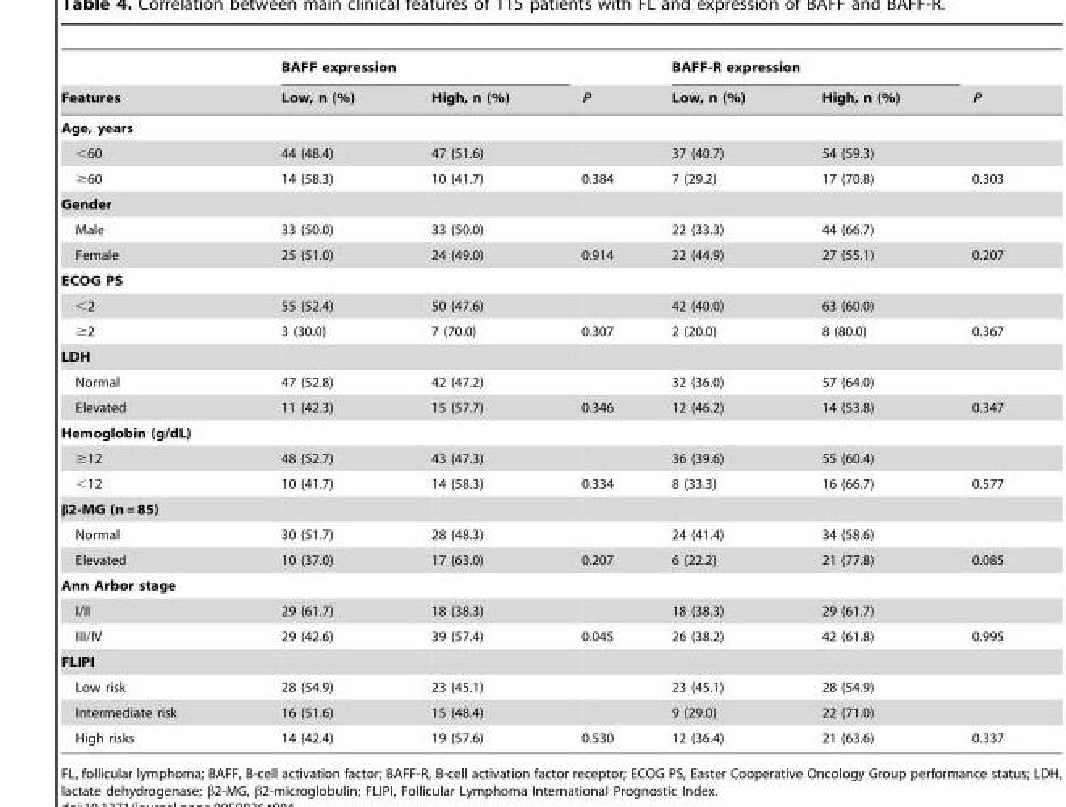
<table><thead><tr><td rowspan="2">Features</td><td colspan="2">BAFF expression</td><td rowspan="2">P</td><td colspan="2">BAFF-R expression</td><td rowspan="2">P</td></tr><tr><td>Low, n (%)</td><td>High, n (%)</td><td>Low, n (%)</td><td>High, n (%)</td></tr></thead><tbody><tr><td colspan="7">Age, years</td></tr><tr><td>&lt;60</td><td>44 (48.4)</td><td>47 (51.6)</td><td></td><td>37 (40.7)</td><td>54 (59.3)</td><td></td></tr><tr><td>≥60</td><td>14 (58.3)</td><td>10 (41.7)</td><td>0.384</td><td>7 (29.2)</td><td>17 (70.8)</td><td>0.303</td></tr><tr><td colspan="7">Gender</td></tr><tr><td>Male</td><td>33 (50.0)</td><td>33 (50.0)</td><td></td><td>22 (33.3)</td><td>44 (66.7)</td><td></td></tr><tr><td>Female</td><td>25 (51.0)</td><td>24 (49.0)</td><td>0.914</td><td>22 (44.9)</td><td>27 (55.1)</td><td>0.207</td></tr><tr><td colspan="7">ECOG PS</td></tr><tr><td>&lt;2</td><td>55 (52.4)</td><td>50 (47.6)</td><td></td><td>42 (40.0)</td><td>63 (60.0)</td><td></td></tr><tr><td>≥2</td><td>3 (30.0)</td><td>7 (70.0)</td><td>0.307</td><td>2 (20.0)</td><td>8 (80.0)</td><td>0.367</td></tr><tr><td colspan="7">LDH</td></tr><tr><td>Normal</td><td>47 (52.8)</td><td>42 (47.2)</td><td></td><td>32 (36.0)</td><td>57 (64.0)</td><td></td></tr><tr><td>Elevated</td><td>11 (42.3)</td><td>15 (57.7)</td><td>0.346</td><td>12 (46.2)</td><td>14 (53.8)</td><td>0.347</td></tr><tr><td colspan="7">Hemoglobin (g/dL)</td></tr><tr><td>≥12</td><td>48 (52.7)</td><td>43 (47.3)</td><td></td><td>36 (39.6)</td><td>55 (60.4)</td><td></td></tr><tr><td>&lt;12</td><td>10 (41.7)</td><td>14 (58.3)</td><td>0.334</td><td>8 (33.3)</td><td>16 (66.7)</td><td>0.577</td></tr><tr><td colspan="7">β2-MG (n = 85)</td></tr><tr><td>Normal</td><td>30 (51.7)</td><td>28 (48.3)</td><td></td><td>24 (41.4)</td><td>34 (58.6)</td><td></td></tr><tr><td>Elevated</td><td>10 (37.0)</td><td>17 (63.0)</td><td>0.207</td><td>6 (22.2)</td><td>21 (77.8)</td><td>0.085</td></tr><tr><td colspan="7">Ann Arbor stage</td></tr><tr><td>I/II</td><td>29 (61.7)</td><td>18 (38.3)</td><td></td><td>18 (38.3)</td><td>29 (61.7)</td><td></td></tr><tr><td>III/IV</td><td>29 (42.6)</td><td>39 (57.4)</td><td>0.045</td><td>26 (38.2)</td><td>42 (61.8)</td><td>0.995</td></tr><tr><td colspan="7">FLIPI</td></tr><tr><td>Low risk</td><td>28 (54.9)</td><td>23 (45.1)</td><td></td><td>23 (45.1)</td><td>28 (54.9)</td><td></td></tr><tr><td>Intermediate risk</td><td>16 (51.6)</td><td>15 (48.4)</td><td></td><td>9 (29.0)</td><td>22 (71.0)</td><td></td></tr><tr><td>High risks</td><td>14 (42.4)</td><td>19 (57.6)</td><td>0.530</td><td>12 (36.4)</td><td>21 (63.6)</td><td>0.337</td></tr></tbody></table>